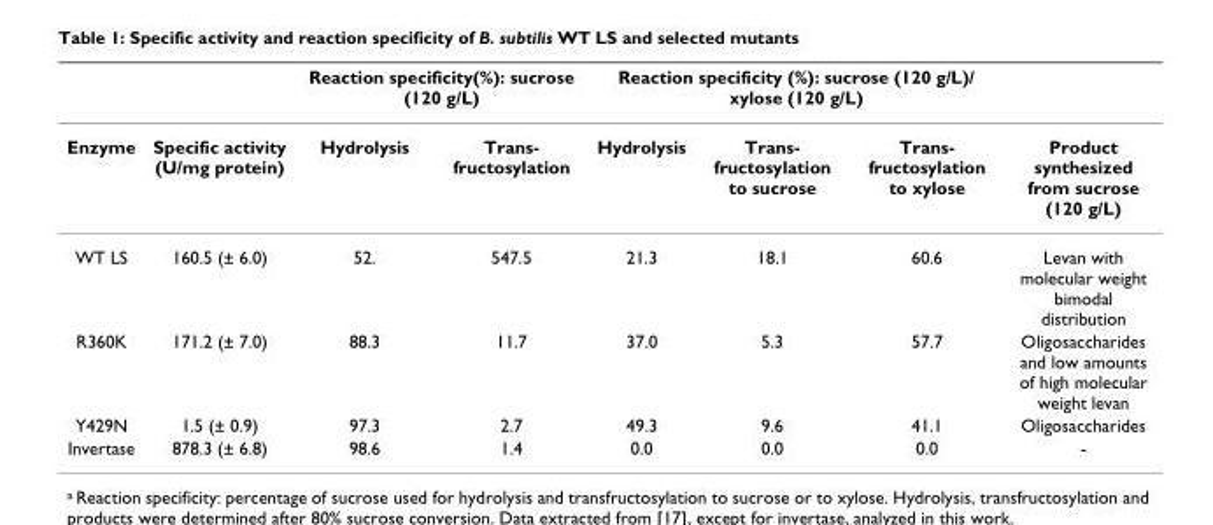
<table><thead><tr><td rowspan="2">Enzyme</td><td rowspan="2">Specific activity (U/mg protein)</td><td colspan="2">Reaction specificity(%): sucrose (120 g/L)</td><td colspan="3">Reaction specificity (%): sucrose (120 g/L)/ xylose (120 g/L)</td><td rowspan="2">Product synthesized from sucrose (120 g/L)</td></tr><tr><td>Hydrolysis</td><td>Trans- fructosylation</td><td>Hydrolysis</td><td>Trans- fructosylation to sucrose</td><td>Trans- fructosylation to xylose</td></tr></thead><tbody><tr><td>WT LS</td><td>160.5 (± 6.0)</td><td>52.</td><td>547.5</td><td>21.3</td><td>18.1</td><td>60.6</td><td>Levan with molecular weight bimodal distribution</td></tr><tr><td>R360K</td><td>171.2 (± 7.0)</td><td>88.3</td><td>11.7</td><td>37.0</td><td>5.3</td><td>57.7</td><td>Oligosaccharides and low amounts of high molecular weight levan</td></tr><tr><td>Y429N</td><td>1.5 (± 0.9)</td><td>97.3</td><td>2.7</td><td>49.3</td><td>9.6</td><td>41.1</td><td>Oligosaccharides</td></tr><tr><td>Invertase</td><td>878.3 (± 6.8)</td><td>98.6</td><td>1.4</td><td>0.0</td><td>0.0</td><td>0.0</td><td>-</td></tr></tbody></table>